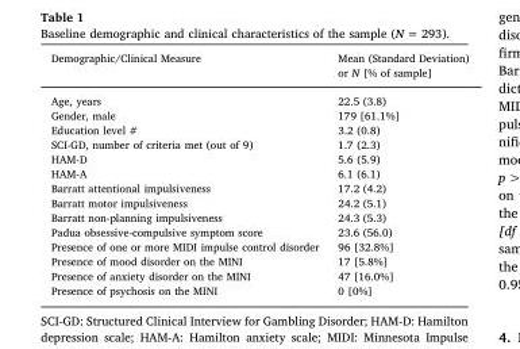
<table><thead><tr><td>Demographic/Clinical Measure</td><td>Mean (Standard Deviation) or N [% of sample]</td></tr></thead><tbody><tr><td>Age, years</td><td>22.5 (3.8)</td></tr><tr><td>Gender, male</td><td>179 [61.1%]</td></tr><tr><td>Education level #</td><td>3.2 (0.8)</td></tr><tr><td>SCI-GD, number of criteria met (out of 9)</td><td>1.7 (2.3)</td></tr><tr><td>HAM-D</td><td>5.6 (5.9)</td></tr><tr><td>HAM-A</td><td>6.1 (6.1)</td></tr><tr><td>Barratt attentional impulsiveness</td><td>17.2 (4.2)</td></tr><tr><td>Barratt motor impulsiveness</td><td>24.2 (5.1)</td></tr><tr><td>Barratt non-planning impulsiveness</td><td>24.3 (5.3)</td></tr><tr><td>Padua obsessive-compulsive symptom score</td><td>23.6 (56.0)</td></tr><tr><td>Presence of one or more MIDI impulse control disorder</td><td>96 [32.8%]</td></tr><tr><td>Presence of mood disorder on the MINI</td><td>17 [5.8%]</td></tr><tr><td>Presence of anxiety disorder on the MINI</td><td>47 [16.0%]</td></tr><tr><td>Presence of psychosis on the MINI</td><td>0 [0%]</td></tr></tbody></table>